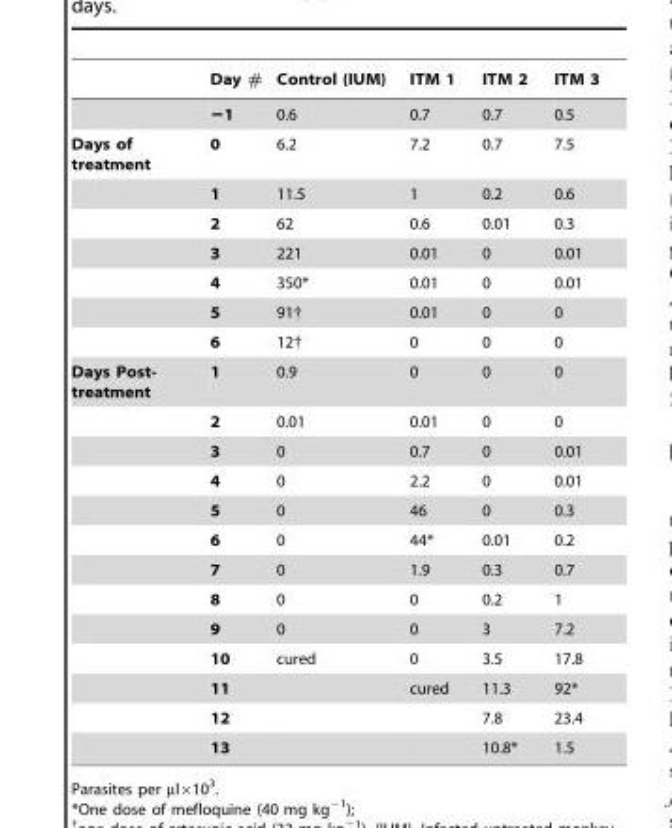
<table><thead><tr><td></td><td>Day #</td><td>Control (IUM)</td><td>ITM 1</td><td>ITM 2</td><td>ITM 3</td></tr></thead><tbody><tr><td></td><td>−1</td><td>0.6</td><td>0.7</td><td>0.7</td><td>0.5</td></tr><tr><td rowspan="7">Days of treatment</td><td>0</td><td>6.2</td><td>7.2</td><td>0.7</td><td>7.5</td></tr><tr><td>1</td><td>11.5</td><td>1</td><td>0.2</td><td>0.6</td></tr><tr><td>2</td><td>62</td><td>0.6</td><td>0.01</td><td>0.3</td></tr><tr><td>3</td><td>221</td><td>0.01</td><td>0</td><td>0.01</td></tr><tr><td>4</td><td>350*</td><td>0.01</td><td>0</td><td>0.01</td></tr><tr><td>5</td><td>91†</td><td>0.01</td><td>0</td><td>0</td></tr><tr><td>6</td><td>12†</td><td>0</td><td>0</td><td>0</td></tr><tr><td rowspan="13">Days Post- treatment</td><td>1</td><td>0.9</td><td>0</td><td>0</td><td>0</td></tr><tr><td>2</td><td>0.01</td><td>0.01</td><td>0</td><td>0</td></tr><tr><td>3</td><td>0</td><td>0.7</td><td>0</td><td>0.01</td></tr><tr><td>4</td><td>0</td><td>2.2</td><td>0</td><td>0.01</td></tr><tr><td>5</td><td>0</td><td>46</td><td>0</td><td>0.3</td></tr><tr><td>6</td><td>0</td><td>44*</td><td>0.01</td><td>0.2</td></tr><tr><td>7</td><td>0</td><td>1.9</td><td>0.3</td><td>0.7</td></tr><tr><td>8</td><td>0</td><td>0</td><td>0.2</td><td>1</td></tr><tr><td>9</td><td>0</td><td>0</td><td>3</td><td>7.2</td></tr><tr><td>10</td><td>cured</td><td>0</td><td>3.5</td><td>17.8</td></tr><tr><td>11</td><td></td><td>cured</td><td>11.3</td><td>92*</td></tr><tr><td>12</td><td></td><td></td><td>7.8</td><td>23.4</td></tr><tr><td>13</td><td></td><td></td><td>10.8*</td><td>1.5</td></tr></tbody></table>